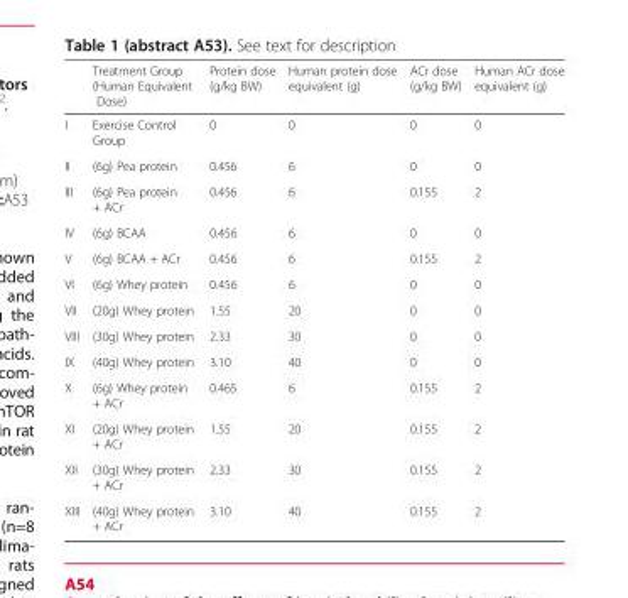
<table><thead><tr><td></td><td>Treatment Group (Human Equivalent Dose)</td><td>Protein dose (g/kg BW)</td><td>Human protein dose equivalent (g)</td><td>ACr dose (g/kg BW)</td><td>Human ACr dose equivalent (g)</td></tr></thead><tbody><tr><td>I</td><td>Exercise Control Group</td><td>0</td><td>0</td><td>0</td><td>0</td></tr><tr><td>II</td><td>(6g) Pea protein</td><td>0.456</td><td>6</td><td>0</td><td>0</td></tr><tr><td>III</td><td>(6g) Pea protein + ACr</td><td>0.456</td><td>6</td><td>0.155</td><td>2</td></tr><tr><td>IV</td><td>(6g) BCAA</td><td>0.456</td><td>6</td><td>0</td><td>0</td></tr><tr><td>V</td><td>(6g) BCAA + ACr</td><td>0.456</td><td>6</td><td>0.155</td><td>2</td></tr><tr><td>VI</td><td>(6g) Whey protein</td><td>0.456</td><td>6</td><td>0</td><td>0</td></tr><tr><td>VII</td><td>(20g) Whey protein</td><td>1.55</td><td>20</td><td>0</td><td>0</td></tr><tr><td>VIII</td><td>(30g) Whey protein</td><td>2.33</td><td>30</td><td>0</td><td>0</td></tr><tr><td>IX</td><td>(40g) Whey protein</td><td>3.10</td><td>40</td><td>0</td><td>0</td></tr><tr><td>X</td><td>(6g) Whey protein + ACr</td><td>0.465</td><td>6</td><td>0.155</td><td>2</td></tr><tr><td>XI</td><td>(20g) Whey protein + ACr</td><td>1.55</td><td>20</td><td>0.155</td><td>2</td></tr><tr><td>XII</td><td>(30g) Whey protein + ACr</td><td>2.33</td><td>30</td><td>0.155</td><td>2</td></tr><tr><td>XIII</td><td>(40g) Whey protein + ACr</td><td>3.10</td><td>40</td><td>0.155</td><td>2</td></tr></tbody></table>